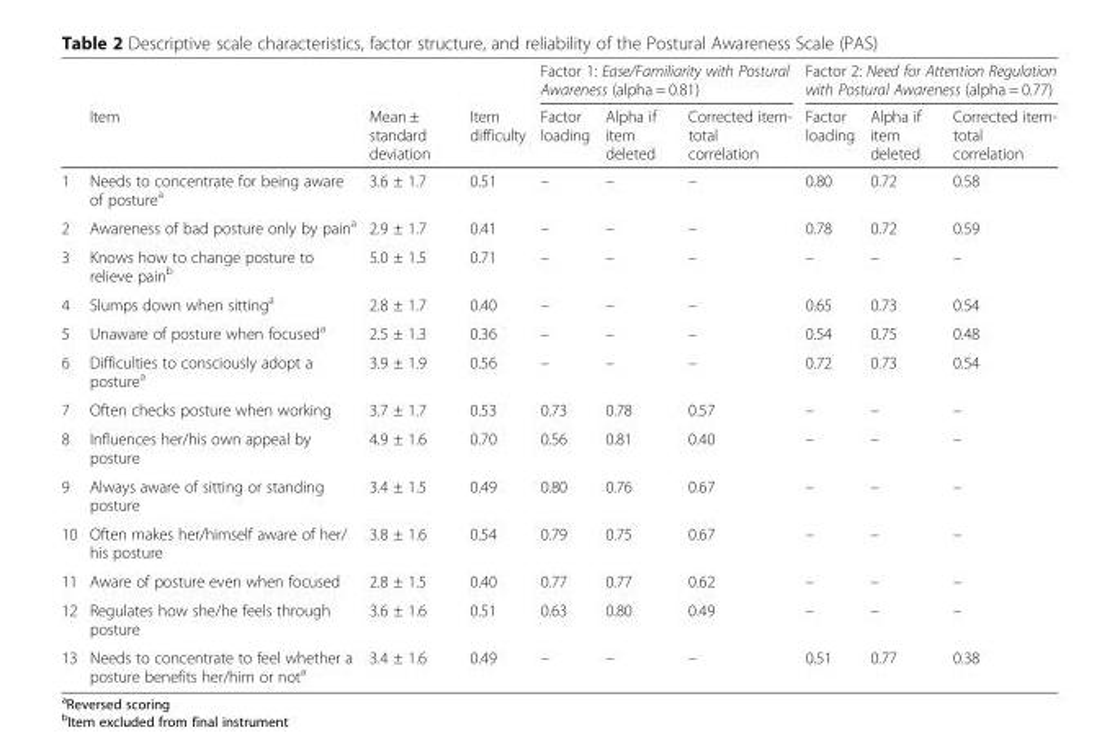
<table><thead><tr><td rowspan="2"></td><td rowspan="2">Item</td><td rowspan="2">Mean ± standard deviation</td><td rowspan="2">Item difficulty</td><td colspan="3">Factor 1: Ease/Familiarity with Postural Awareness (alpha = 0.81)</td><td colspan="3">Factor 2: Need for Attention Regulation with Postural Awareness (alpha = 0.77)</td></tr><tr><td>Factor loading</td><td>Alpha if item deleted</td><td>Corrected item- total correlation</td><td>Factor loading</td><td>Alpha if item deleted</td><td>Corrected item- total correlation</td></tr></thead><tbody><tr><td>1</td><td>Needs to concentrate for being aware of posture<sup>a</sup></td><td>3.6 ± 1.7</td><td>0.51</td><td>–</td><td>–</td><td>–</td><td>0.80</td><td>0.72</td><td>0.58</td></tr><tr><td>2</td><td>Awareness of bad posture only by pain<sup>a</sup></td><td>2.9 ± 1.7</td><td>0.41</td><td>–</td><td>–</td><td>–</td><td>0.78</td><td>0.72</td><td>0.59</td></tr><tr><td>3</td><td>Knows how to change posture to relieve pain<sup>b</sup></td><td>5.0 ± 1.5</td><td>0.71</td><td>–</td><td>–</td><td>–</td><td>–</td><td>–</td><td>–</td></tr><tr><td>4</td><td>Slumps down when sitting<sup>a</sup></td><td>2.8 ± 1.7</td><td>0.40</td><td>–</td><td>–</td><td>–</td><td>0.65</td><td>0.73</td><td>0.54</td></tr><tr><td>5</td><td>Unaware of posture when focused<sup>a</sup></td><td>2.5 ± 1.3</td><td>0.36</td><td>–</td><td>–</td><td>–</td><td>0.54</td><td>0.75</td><td>0.48</td></tr><tr><td>6</td><td>Difficulties to consciously adopt a posture<sup>a</sup></td><td>3.9 ± 1.9</td><td>0.56</td><td>–</td><td>–</td><td>–</td><td>0.72</td><td>0.73</td><td>0.54</td></tr><tr><td>7</td><td>Often checks posture when working</td><td>3.7 ± 1.7</td><td>0.53</td><td>0.73</td><td>0.78</td><td>0.57</td><td>–</td><td>–</td><td>–</td></tr><tr><td>8</td><td>Influences her/his own appeal by posture</td><td>4.9 ± 1.6</td><td>0.70</td><td>0.56</td><td>0.81</td><td>0.40</td><td>–</td><td>–</td><td>–</td></tr><tr><td>9</td><td>Always aware of sitting or standing posture</td><td>3.4 ± 1.5</td><td>0.49</td><td>0.80</td><td>0.76</td><td>0.67</td><td>–</td><td>–</td><td>–</td></tr><tr><td>10</td><td>Often makes her/himself aware of her/ his posture</td><td>3.8 ± 1.6</td><td>0.54</td><td>0.79</td><td>0.75</td><td>0.67</td><td>–</td><td>–</td><td>–</td></tr><tr><td>11</td><td>Aware of posture even when focused</td><td>2.8 ± 1.5</td><td>0.40</td><td>0.77</td><td>0.77</td><td>0.62</td><td>–</td><td>–</td><td>–</td></tr><tr><td>12</td><td>Regulates how she/he feels through posture</td><td>3.6 ± 1.6</td><td>0.51</td><td>0.63</td><td>0.80</td><td>0.49</td><td>–</td><td>–</td><td>–</td></tr><tr><td>13</td><td>Needs to concentrate to feel whether a posture benefits her/him or not<sup>a</sup></td><td>3.4 ± 1.6</td><td>0.49</td><td>–</td><td>–</td><td>–</td><td>0.51</td><td>0.77</td><td>0.38</td></tr></tbody></table>